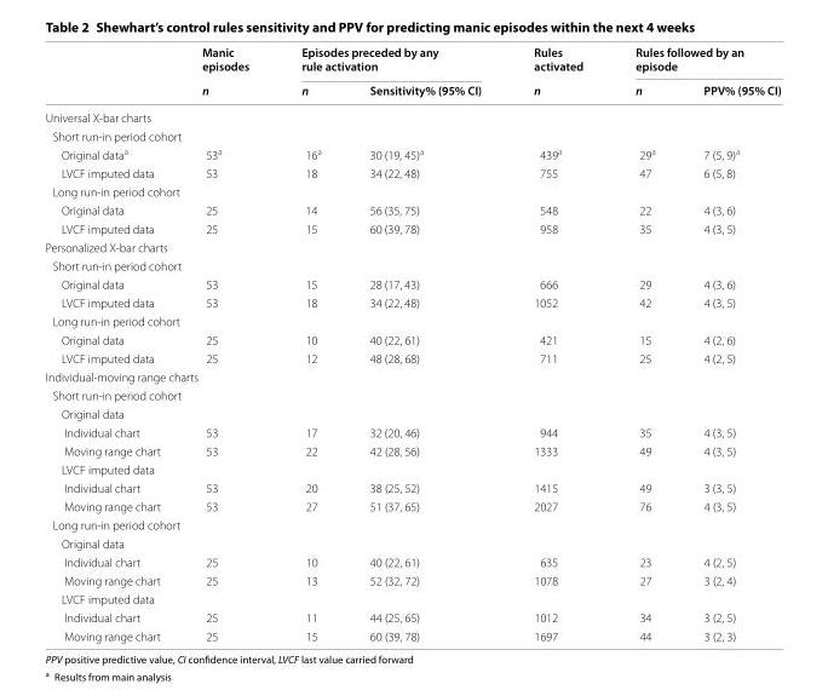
<table><thead><tr><td rowspan="2"></td><td rowspan="2">Manic episodes n</td><td colspan="2">Episodes preceded by any rule activation</td><td rowspan="2">Rules activated n</td><td colspan="2">Rules followed by an episode</td></tr><tr><td>n</td><td>Sensitivity% (95% CI)</td><td>n</td><td>PPV% (95% CI)</td></tr></thead><tbody><tr><td colspan="7">Universal X‑bar charts</td></tr><tr><td colspan="7">Short run‑in period cohort</td></tr><tr><td>Original data<sup>a</sup></td><td>53<sup>a</sup></td><td>16<sup>a</sup></td><td>30 (19, 45)<sup>a</sup></td><td>439<sup>a</sup></td><td>29<sup>a</sup></td><td>7 (5, 9)<sup>a</sup></td></tr><tr><td>LVCF imputed data</td><td>53</td><td>18</td><td>34 (22, 48)</td><td>755</td><td>47</td><td>6 (5, 8)</td></tr><tr><td colspan="7">Long run‑in period cohort</td></tr><tr><td>Original data</td><td>25</td><td>14</td><td>56 (35, 75)</td><td>548</td><td>22</td><td>4 (3, 6)</td></tr><tr><td>LVCF imputed data</td><td>25</td><td>15</td><td>60 (39, 78)</td><td>958</td><td>35</td><td>4 (3, 5)</td></tr><tr><td colspan="7">Personalized X‑bar charts</td></tr><tr><td colspan="7">Short run‑in period cohort</td></tr><tr><td>Original data</td><td>53</td><td>15</td><td>28 (17, 43)</td><td>666</td><td>29</td><td>4 (3, 6)</td></tr><tr><td>LVCF imputed data</td><td>53</td><td>18</td><td>34 (22, 48)</td><td>1052</td><td>42</td><td>4 (3, 5)</td></tr><tr><td colspan="7">Long run‑in period cohort</td></tr><tr><td>Original data</td><td>25</td><td>10</td><td>40 (22, 61)</td><td>421</td><td>15</td><td>4 (2, 6)</td></tr><tr><td>LVCF imputed data</td><td>25</td><td>12</td><td>48 (28, 68)</td><td>711</td><td>25</td><td>4 (2, 5)</td></tr><tr><td colspan="7">Individual‑moving range charts</td></tr><tr><td colspan="7">Short run‑in period cohort</td></tr><tr><td colspan="7">Original data</td></tr><tr><td>Individual chart</td><td>53</td><td>17</td><td>32 (20, 46)</td><td>944</td><td>35</td><td>4 (3, 5)</td></tr><tr><td>Moving range chart</td><td>53</td><td>22</td><td>42 (28, 56)</td><td>1333</td><td>49</td><td>4 (3, 5)</td></tr><tr><td colspan="7">LVCF imputed data</td></tr><tr><td>Individual chart</td><td>53</td><td>20</td><td>38 (25, 52)</td><td>1415</td><td>49</td><td>3 (3, 5)</td></tr><tr><td>Moving range chart</td><td>53</td><td>27</td><td>51 (37, 65)</td><td>2027</td><td>76</td><td>4 (3, 5)</td></tr><tr><td colspan="7">Long run‑in period cohort</td></tr><tr><td colspan="7">Original data</td></tr><tr><td>Individual chart</td><td>25</td><td>10</td><td>40 (22, 61)</td><td>635</td><td>23</td><td>4 (2, 5)</td></tr><tr><td>Moving range chart</td><td>25</td><td>13</td><td>52 (32, 72)</td><td>1078</td><td>27</td><td>3 (2, 4)</td></tr><tr><td colspan="7">LVCF imputed data</td></tr><tr><td>Individual chart</td><td>25</td><td>11</td><td>44 (25, 65)</td><td>1012</td><td>34</td><td>3 (2, 5)</td></tr><tr><td>Moving range chart</td><td>25</td><td>15</td><td>60 (39, 78)</td><td>1697</td><td>44</td><td>3 (2, 3)</td></tr></tbody></table>